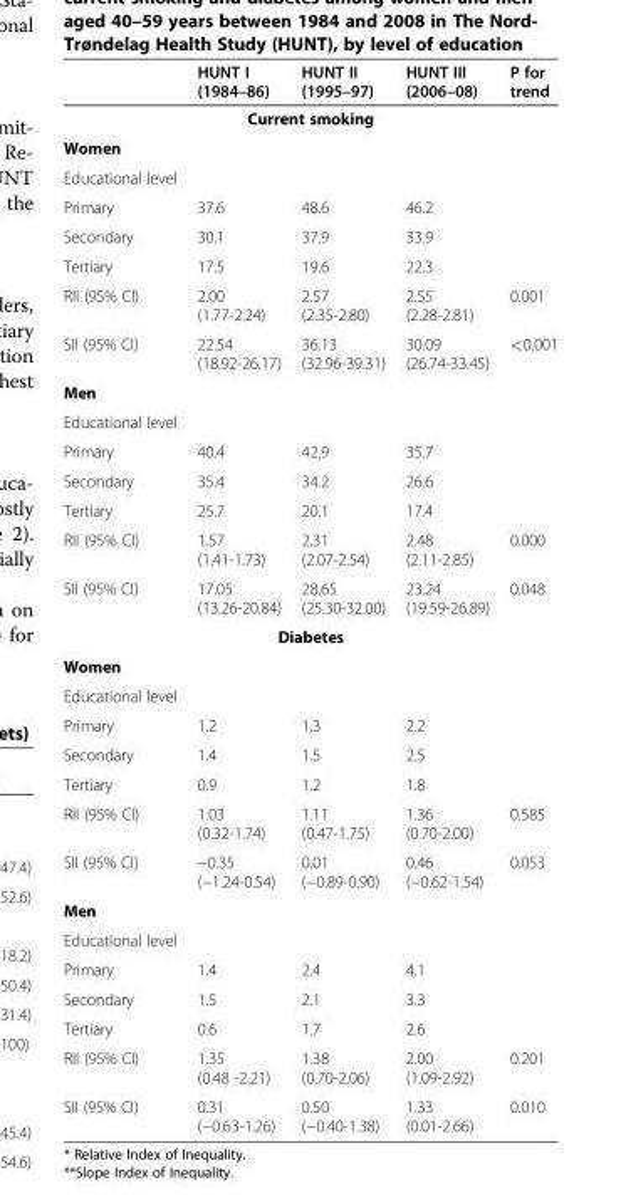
<table><thead><tr><td></td><td>HUNT I (1984–86)</td><td>HUNT II (1995–97)</td><td>HUNT III (2006–08)</td><td>P for trend</td></tr></thead><tbody><tr><td colspan="5">Current smoking</td></tr><tr><td colspan="5">Women</td></tr><tr><td colspan="5">Educational level</td></tr><tr><td>Primary</td><td>37.6</td><td>48.6</td><td>46.2</td><td></td></tr><tr><td>Secondary</td><td>30.1</td><td>37.9</td><td>33.9</td><td></td></tr><tr><td>Tertiary</td><td>17.5</td><td>19.6</td><td>22.3</td><td></td></tr><tr><td>RII (95% CI)</td><td>2.00 (1.77-2.24)</td><td>2.57 (2.35-2.80)</td><td>2.55 (2.28-2.81)</td><td>0.001</td></tr><tr><td>SII (95% CI)</td><td>22.54 (18.92-26.17)</td><td>36.13 (32.96-39.31)</td><td>30.09 (26.74-33.45)</td><td>&lt;0.001</td></tr><tr><td colspan="5">Men</td></tr><tr><td colspan="5">Educational level</td></tr><tr><td>Primary</td><td>40.4</td><td>42.9</td><td>35.7</td><td></td></tr><tr><td>Secondary</td><td>35.4</td><td>34.2</td><td>26.6</td><td></td></tr><tr><td>Tertiary</td><td>25.7</td><td>20.1</td><td>17.4</td><td></td></tr><tr><td>RII (95% CI)</td><td>1.57 (1.41-1.73)</td><td>2.31 (2.07-2.54)</td><td>2.48 (2.11-2.85)</td><td>0.000</td></tr><tr><td>SII (95% CI)</td><td>17.05 (13.26-20.84)</td><td>28.65 (25.30-32.00)</td><td>23.24 (19.59-26.89)</td><td>0.048</td></tr><tr><td colspan="5">Diabetes</td></tr><tr><td colspan="5">Women</td></tr><tr><td colspan="5">Educational level</td></tr><tr><td>Primary</td><td>1.2</td><td>1.3</td><td>2.2</td><td></td></tr><tr><td>Secondary</td><td>1.4</td><td>1.5</td><td>2.5</td><td></td></tr><tr><td>Tertiary</td><td>0.9</td><td>1.2</td><td>1.8</td><td></td></tr><tr><td>RII (95% CI)</td><td>1.03 (0.32-1.74)</td><td>1.11 (0.47-1.75)</td><td>1.36 (0.70-2.00)</td><td>0.585</td></tr><tr><td>SII (95% CI)</td><td>−0.35 (−1.24-0.54)</td><td>0.01 (−0.89-0.90)</td><td>0.46 (−0.62-1.54)</td><td>0.053</td></tr><tr><td colspan="5">Men</td></tr><tr><td colspan="5">Educational level</td></tr><tr><td>Primary</td><td>1.4</td><td>2.4</td><td>4.1</td><td></td></tr><tr><td>Secondary</td><td>1.5</td><td>2.1</td><td>3.3</td><td></td></tr><tr><td>Tertiary</td><td>0.6</td><td>1.7</td><td>2.6</td><td></td></tr><tr><td>RII (95% CI)</td><td>1.35 (0.48 -2.21)</td><td>1.38 (0.70-2.06)</td><td>2.00 (1.09-2.92)</td><td>0.201</td></tr><tr><td>SII (95% CI)</td><td>0.31 (−0.63-1.26)</td><td>0.50 (−0.40-1.38)</td><td>1.33 (0.01-2.66)</td><td>0.010</td></tr></tbody></table>